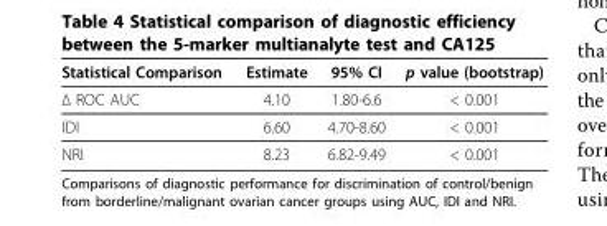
<table><thead><tr><td>Statistical Comparison</td><td>Estimate</td><td>95% CI</td><td>p value (bootstrap)</td></tr></thead><tbody><tr><td>Δ ROC AUC</td><td>4.10</td><td>1.80-6.6</td><td>&lt; 0.001</td></tr><tr><td>IDI</td><td>6.60</td><td>4.70-8.60</td><td>&lt; 0.001</td></tr><tr><td>NRI</td><td>8.23</td><td>6.82-9.49</td><td>&lt; 0.001</td></tr></tbody></table>